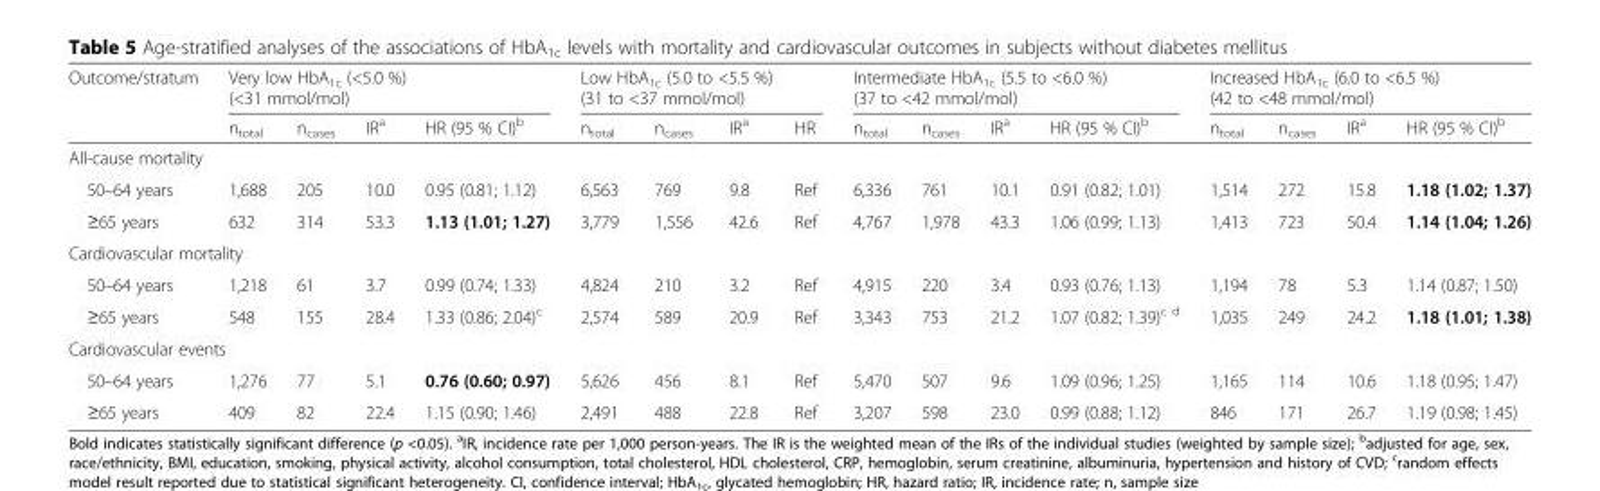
<table><thead><tr><td rowspan="2">Outcome/stratum</td><td colspan="4">Very low HbA<sub>1c</sub> (&lt;5.0 %) (&lt;31 mmol/mol)</td><td colspan="4">Low HbA<sub>1c</sub> (5.0 to &lt;5.5 %) (31 to &lt;37 mmol/mol)</td><td colspan="4">Intermediate HbA<sub>1c</sub> (5.5 to &lt;6.0 %) (37 to &lt;42 mmol/mol)</td><td colspan="4">Increased HbA<sub>1c</sub> (6.0 to &lt;6.5 %) (42 to &lt;48 mmol/mol)</td></tr><tr><td>n<sub>total</sub></td><td>n<sub>cases</sub></td><td>IR<sup>a</sup></td><td>HR (95 % CI)<sup>b</sup></td><td>n<sub>total</sub></td><td>n<sub>cases</sub></td><td>IR<sup>a</sup></td><td>HR</td><td>n<sub>total</sub></td><td>n<sub>cases</sub></td><td>IR<sup>a</sup></td><td>HR (95 % CI)<sup>b</sup></td><td>n<sub>total</sub></td><td>n<sub>cases</sub></td><td>IR<sup>a</sup></td><td>HR (95 % CI)<sup>b</sup></td></tr></thead><tbody><tr><td colspan="17">All-cause mortality</td></tr><tr><td>50–64 years</td><td>1,688</td><td>205</td><td>10.0</td><td>0.95 (0.81; 1.12)</td><td>6,563</td><td>769</td><td>9.8</td><td>Ref</td><td>6,336</td><td>761</td><td>10.1</td><td>0.91 (0.82; 1.01)</td><td>1,514</td><td>272</td><td>15.8</td><td>1.18 (1.02; 1.37)</td></tr><tr><td>≥65 years</td><td>632</td><td>314</td><td>53.3</td><td>1.13 (1.01; 1.27)</td><td>3,779</td><td>1,556</td><td>42.6</td><td>Ref</td><td>4,767</td><td>1,978</td><td>43.3</td><td>1.06 (0.99; 1.13)</td><td>1,413</td><td>723</td><td>50.4</td><td>1.14 (1.04; 1.26)</td></tr><tr><td colspan="17">Cardiovascular mortality</td></tr><tr><td>50–64 years</td><td>1,218</td><td>61</td><td>3.7</td><td>0.99 (0.74; 1.33)</td><td>4,824</td><td>210</td><td>3.2</td><td>Ref</td><td>4,915</td><td>220</td><td>3.4</td><td>0.93 (0.76; 1.13)</td><td>1,194</td><td>78</td><td>5.3</td><td>1.14 (0.87; 1.50)</td></tr><tr><td>≥65 years</td><td>548</td><td>155</td><td>28.4</td><td>1.33 (0.86; 2.04)<sup>c</sup></td><td>2,574</td><td>589</td><td>20.9</td><td>Ref</td><td>3,343</td><td>753</td><td>21.2</td><td>1.07 (0.82; 1.39)<sup>c d</sup></td><td>1,035</td><td>249</td><td>24.2</td><td>1.18 (1.01; 1.38)</td></tr><tr><td colspan="17">Cardiovascular events</td></tr><tr><td>50–64 years</td><td>1,276</td><td>77</td><td>5.1</td><td>0.76 (0.60; 0.97)</td><td>5,626</td><td>456</td><td>8.1</td><td>Ref</td><td>5,470</td><td>507</td><td>9.6</td><td>1.09 (0.96; 1.25)</td><td>1,165</td><td>114</td><td>10.6</td><td>1.18 (0.95; 1.47)</td></tr><tr><td>≥65 years</td><td>409</td><td>82</td><td>22.4</td><td>1.15 (0.90; 1.46)</td><td>2,491</td><td>488</td><td>22.8</td><td>Ref</td><td>3,207</td><td>598</td><td>23.0</td><td>0.99 (0.88; 1.12)</td><td>846</td><td>171</td><td>26.7</td><td>1.19 (0.98; 1.45)</td></tr></tbody></table>